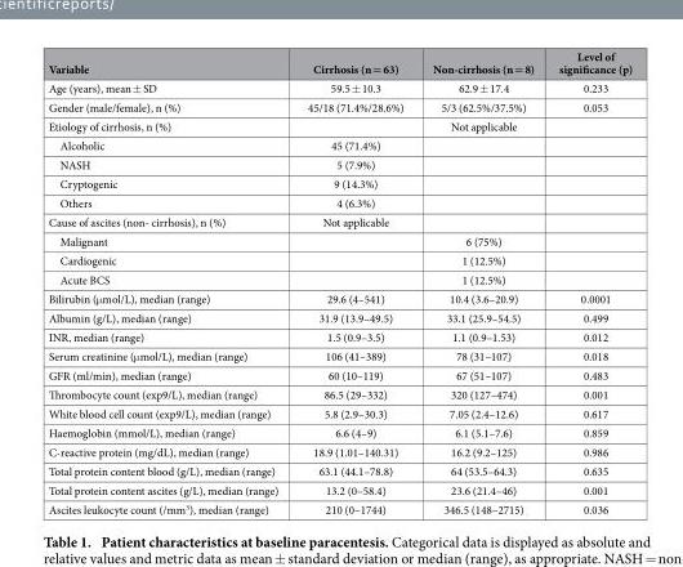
<table><thead><tr><td>Variable</td><td>Cirrhosis (n = 63)</td><td>Non-cirrhosis (n = 8)</td><td>Level of significance (p)</td></tr></thead><tbody><tr><td>Age (years), mean ± SD</td><td>59.5 ± 10.3</td><td>62.9 ± 17.4</td><td>0.233</td></tr><tr><td>Gender (male/female), n (%)</td><td>45/18 (71.4%/28.6%)</td><td>5/3 (62.5%/37.5%)</td><td>0.053</td></tr><tr><td>Etiology of cirrhosis, n (%)</td><td></td><td>Not applicable</td><td></td></tr><tr><td>Alcoholic</td><td>45 (71.4%)</td><td></td><td></td></tr><tr><td>NASH</td><td>5 (7.9%)</td><td></td><td></td></tr><tr><td>Cryptogenic</td><td>9 (14.3%)</td><td></td><td></td></tr><tr><td>Others</td><td>4 (6.3%)</td><td></td><td></td></tr><tr><td>Cause of ascites (non- cirrhosis), n (%)</td><td>Not applicable</td><td></td><td></td></tr><tr><td>Malignant</td><td></td><td>6 (75%)</td><td></td></tr><tr><td>Cardiogenic</td><td></td><td>1 (12.5%)</td><td></td></tr><tr><td>Acute BCS</td><td></td><td>1 (12.5%)</td><td></td></tr><tr><td>Bilirubin (μ mol/L), median (range)</td><td>29.6 (4–541)</td><td>10.4 (3.6–20.9)</td><td>0.0001</td></tr><tr><td>Albumin (g/L), median (range)</td><td>31.9 (13.9–49.5)</td><td>33.1 (25.9–54.5)</td><td>0.499</td></tr><tr><td>INR, median (range)</td><td>1.5 (0.9–3.5)</td><td>1.1 (0.9–1.53)</td><td>0.012</td></tr><tr><td>Serum creatinine (μ mol/L), median (range)</td><td>106 (41–389)</td><td>78 (31–107)</td><td>0.018</td></tr><tr><td>GFR (ml/min), median (range)</td><td>60 (10–119)</td><td>67 (51–107)</td><td>0.483</td></tr><tr><td>Thrombocyte count (exp9/L), median (range)</td><td>86.5 (29–332)</td><td>320 (127–474)</td><td>0.001</td></tr><tr><td>White blood cell count (exp9/L), median (range)</td><td>5.8 (2.9–30.3)</td><td>7.05 (2.4–12.6)</td><td>0.617</td></tr><tr><td>Haemoglobin (mmol/L), median (range)</td><td>6.6 (4–9)</td><td>6.1 (5.1–7.6)</td><td>0.859</td></tr><tr><td>C-reactive protein (mg/dL), median (range)</td><td>18.9 (1.01–140.31)</td><td>16.2 (9.2–125)</td><td>0.986</td></tr><tr><td>Total protein content blood (g/L), median (range)</td><td>63.1 (44.1–78.8)</td><td>64 (53.5–64.3)</td><td>0.635</td></tr><tr><td>Total protein content ascites (g/L), median (range)</td><td>13.2 (0–58.4)</td><td>23.6 (21.4–46)</td><td>0.001</td></tr><tr><td>Ascites leukocyte count (/mm<sup>3</sup>), median (range)</td><td>210 (0–1744)</td><td>346.5 (148–2715)</td><td>0.036</td></tr></tbody></table>